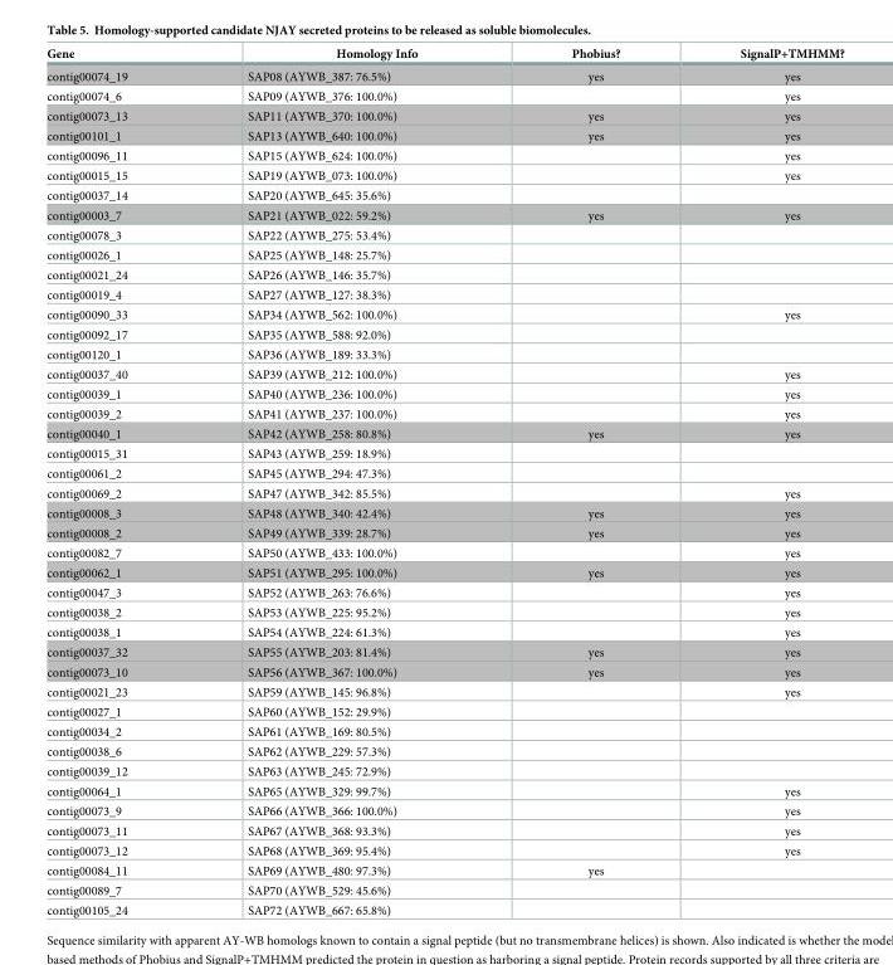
<table><thead><tr><td>Gene</td><td>Homology Info</td><td>Phobius?</td><td>SignalP+TMHMM?</td></tr></thead><tbody><tr><td>contig00074_19</td><td>SAP08 (AYWB_387: 76.5%)</td><td>yes</td><td>yes</td></tr><tr><td>contig00074_6</td><td>SAP09 (AYWB_376: 100.0%)</td><td></td><td>yes</td></tr><tr><td>contig00073_13</td><td>SAP11 (AYWB_370: 100.0%)</td><td>yes</td><td>yes</td></tr><tr><td>contig00101_1</td><td>SAP13 (AYWB_640: 100.0%)</td><td>yes</td><td>yes</td></tr><tr><td>contig00096_11</td><td>SAP15 (AYWB_624: 100.0%)</td><td></td><td>yes</td></tr><tr><td>contig00015_15</td><td>SAP19 (AYWB_073: 100.0%)</td><td></td><td>yes</td></tr><tr><td>contig00037_14</td><td>SAP20 (AYWB_645: 35.6%)</td><td></td><td></td></tr><tr><td>contig00003_7</td><td>SAP21 (AYWB_022: 59.2%)</td><td>yes</td><td>yes</td></tr><tr><td>contig00078_3</td><td>SAP22 (AYWB_275: 53.4%)</td><td></td><td></td></tr><tr><td>contig00026_1</td><td>SAP25 (AYWB_148: 25.7%)</td><td></td><td></td></tr><tr><td>contig00021_24</td><td>SAP26 (AYWB_146: 35.7%)</td><td></td><td></td></tr><tr><td>contig00019_4</td><td>SAP27 (AYWB_127: 38.3%)</td><td></td><td></td></tr><tr><td>contig00090_33</td><td>SAP34 (AYWB_562: 100.0%)</td><td></td><td>yes</td></tr><tr><td>contig00092_17</td><td>SAP35 (AYWB_588: 92.0%)</td><td></td><td></td></tr><tr><td>contig00120_1</td><td>SAP36 (AYWB_189: 33.3%)</td><td></td><td></td></tr><tr><td>contig00037_40</td><td>SAP39 (AYWB_212: 100.0%)</td><td></td><td>yes</td></tr><tr><td>contig00039_1</td><td>SAP40 (AYWB_236: 100.0%)</td><td></td><td>yes</td></tr><tr><td>contig00039_2</td><td>SAP41 (AYWB_237: 100.0%)</td><td></td><td>yes</td></tr><tr><td>contig00040_1</td><td>SAP42 (AYWB_258: 80.8%)</td><td>yes</td><td>yes</td></tr><tr><td>contig00015_31</td><td>SAP43 (AYWB_259: 18.9%)</td><td></td><td></td></tr><tr><td>contig00061_2</td><td>SAP45 (AYWB_294: 47.3%)</td><td></td><td></td></tr><tr><td>contig00069_2</td><td>SAP47 (AYWB_342: 85.5%)</td><td></td><td>yes</td></tr><tr><td>contig00008_3</td><td>SAP48 (AYWB_340: 42.4%)</td><td>yes</td><td>yes</td></tr><tr><td>contig00008_2</td><td>SAP49 (AYWB_339: 28.7%)</td><td>yes</td><td>yes</td></tr><tr><td>contig00082_7</td><td>SAP50 (AYWB_433: 100.0%)</td><td></td><td>yes</td></tr><tr><td>contig00062_1</td><td>SAP51 (AYWB_295: 100.0%)</td><td>yes</td><td>yes</td></tr><tr><td>contig00047_3</td><td>SAP52 (AYWB_263: 76.6%)</td><td></td><td>yes</td></tr><tr><td>contig00038_2</td><td>SAP53 (AYWB_225: 95.2%)</td><td></td><td>yes</td></tr><tr><td>contig00038_1</td><td>SAP54 (AYWB_224: 61.3%)</td><td></td><td>yes</td></tr><tr><td>contig00037_32</td><td>SAP55 (AYWB_203: 81.4%)</td><td>yes</td><td>yes</td></tr><tr><td>contig00073_10</td><td>SAP56 (AYWB_367: 100.0%)</td><td>yes</td><td>yes</td></tr><tr><td>contig00021_23</td><td>SAP59 (AYWB_145: 96.8%)</td><td></td><td>yes</td></tr><tr><td>contig00027_1</td><td>SAP60 (AYWB_152: 29.9%)</td><td></td><td></td></tr><tr><td>contig00034_2</td><td>SAP61 (AYWB_169: 80.5%)</td><td></td><td></td></tr><tr><td>contig00038_6</td><td>SAP62 (AYWB_229: 57.3%)</td><td></td><td></td></tr><tr><td>contig00039_12</td><td>SAP63 (AYWB_245: 72.9%)</td><td></td><td></td></tr><tr><td>contig00064_1</td><td>SAP65 (AYWB_329: 99.7%)</td><td></td><td>yes</td></tr><tr><td>contig00073_9</td><td>SAP66 (AYWB_366: 100.0%)</td><td></td><td>yes</td></tr><tr><td>contig00073_11</td><td>SAP67 (AYWB_368: 93.3%)</td><td></td><td>yes</td></tr><tr><td>contig00073_12</td><td>SAP68 (AYWB_369: 95.4%)</td><td></td><td>yes</td></tr><tr><td>contig00084_11</td><td>SAP69 (AYWB_480: 97.3%)</td><td>yes</td><td></td></tr><tr><td>contig00089_7</td><td>SAP70 (AYWB_529: 45.6%)</td><td></td><td></td></tr><tr><td>contig00105_24</td><td>SAP72 (AYWB_667: 65.8%)</td><td></td><td></td></tr></tbody></table>